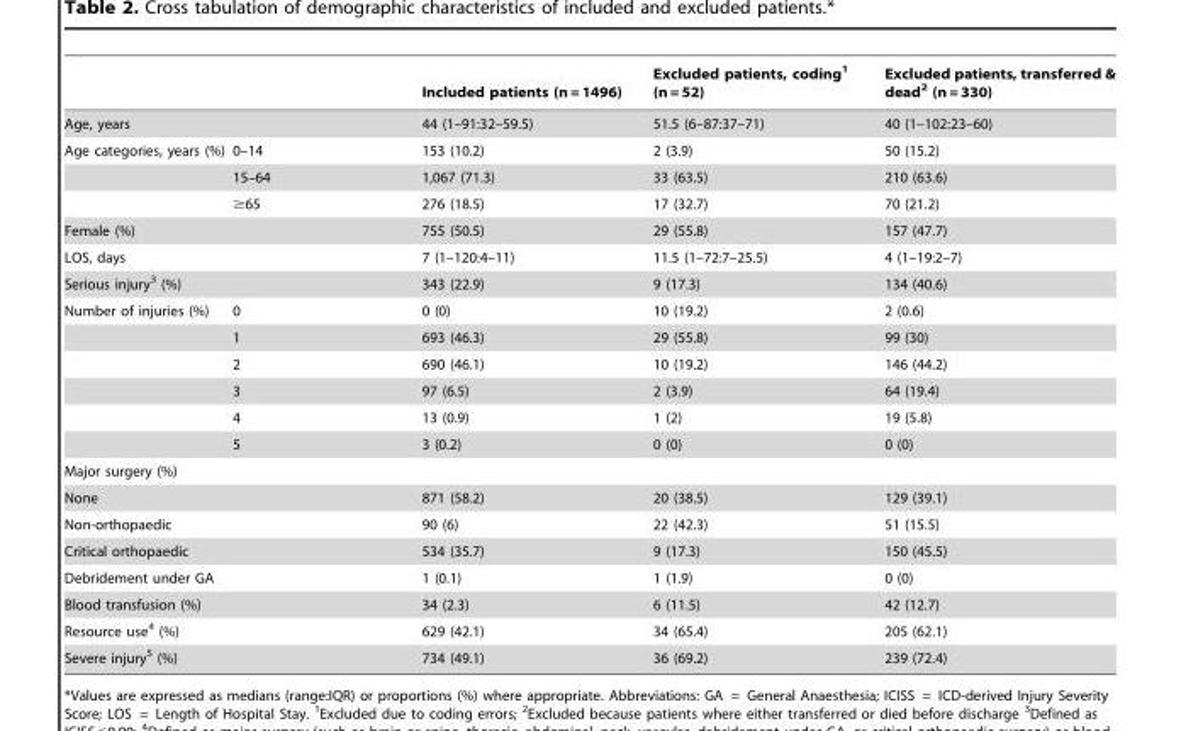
<table><thead><tr><td></td><td></td><td>Included patients (n = 1496)</td><td>Excluded patients, coding<sup>1</sup> (n = 52)</td><td>Excluded patients, transferred &amp; dead<sup>2</sup> (n = 330)</td></tr></thead><tbody><tr><td colspan="2">Age, years</td><td>44 (1–91:32–59.5)</td><td>51.5 (6–87:37–71)</td><td>40 (1–102:23–60)</td></tr><tr><td rowspan="3">Age categories, years (%)</td><td>0–14</td><td>153 (10.2)</td><td>2 (3.9)</td><td>50 (15.2)</td></tr><tr><td>15–64</td><td>1,067 (71.3)</td><td>33 (63.5)</td><td>210 (63.6)</td></tr><tr><td>≥65</td><td>276 (18.5)</td><td>17 (32.7)</td><td>70 (21.2)</td></tr><tr><td colspan="2">Female (%)</td><td>755 (50.5)</td><td>29 (55.8)</td><td>157 (47.7)</td></tr><tr><td colspan="2">LOS, days</td><td>7 (1–120:4–11)</td><td>11.5 (1–72:7–25.5)</td><td>4 (1–19:2–7)</td></tr><tr><td colspan="2">Serious injury<sup>3</sup> (%)</td><td>343 (22.9)</td><td>9 (17.3)</td><td>134 (40.6)</td></tr><tr><td rowspan="6">Number of injuries (%)</td><td>0</td><td>0 (0)</td><td>10 (19.2)</td><td>2 (0.6)</td></tr><tr><td>1</td><td>693 (46.3)</td><td>29 (55.8)</td><td>99 (30)</td></tr><tr><td>2</td><td>690 (46.1)</td><td>10 (19.2)</td><td>146 (44.2)</td></tr><tr><td>3</td><td>97 (6.5)</td><td>2 (3.9)</td><td>64 (19.4)</td></tr><tr><td>4</td><td>13 (0.9)</td><td>1 (2)</td><td>19 (5.8)</td></tr><tr><td>5</td><td>3 (0.2)</td><td>0 (0)</td><td>0 (0)</td></tr><tr><td colspan="5">Major surgery (%)</td></tr><tr><td colspan="2">None</td><td>871 (58.2)</td><td>20 (38.5)</td><td>129 (39.1)</td></tr><tr><td colspan="2">Non-orthopaedic</td><td>90 (6)</td><td>22 (42.3)</td><td>51 (15.5)</td></tr><tr><td colspan="2">Critical orthopaedic</td><td>534 (35.7)</td><td>9 (17.3)</td><td>150 (45.5)</td></tr><tr><td colspan="2">Debridement under GA</td><td>1 (0.1)</td><td>1 (1.9)</td><td>0 (0)</td></tr><tr><td colspan="2">Blood transfusion (%)</td><td>34 (2.3)</td><td>6 (11.5)</td><td>42 (12.7)</td></tr><tr><td colspan="2">Resource use<sup>4</sup> (%)</td><td>629 (42.1)</td><td>34 (65.4)</td><td>205 (62.1)</td></tr><tr><td colspan="2">Severe injury<sup>5</sup> (%)</td><td>734 (49.1)</td><td>36 (69.2)</td><td>239 (72.4)</td></tr></tbody></table>